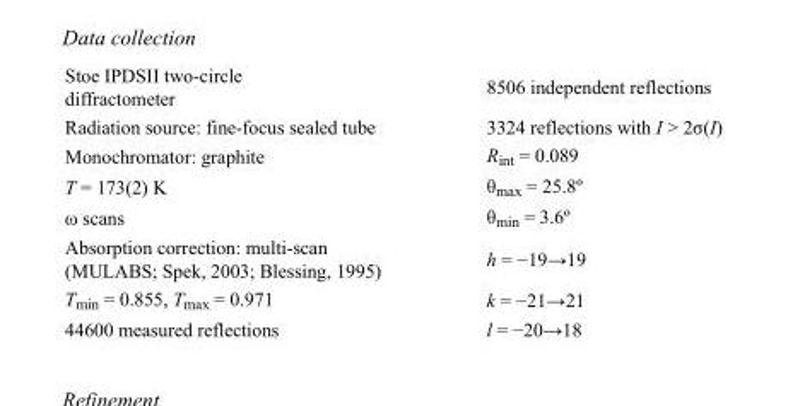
<table><tbody><tr><td>Stoe IPDSII two-circle diffractometer</td><td>8506 independent reflections</td></tr><tr><td>Radiation source: fine-focus sealed tube</td><td>3324 reflections with I &gt; 2σ(I)</td></tr><tr><td>Monochromator: graphite</td><td>R<sub>int</sub> = 0.089</td></tr><tr><td>T = 173(2) K</td><td>θ<sub>max</sub> = 25.8º</td></tr><tr><td>ω scans</td><td>θ<sub>min</sub> = 3.6º</td></tr><tr><td>Absorption correction: multi-scan (MULABS; Spek, 2003; Blessing, 1995)</td><td>h = −19→19</td></tr><tr><td>T<sub>min</sub> = 0.855, T<sub>max</sub> = 0.971</td><td>k = −21→21</td></tr><tr><td>44600 measured reflections</td><td>l = −20→18</td></tr></tbody></table>